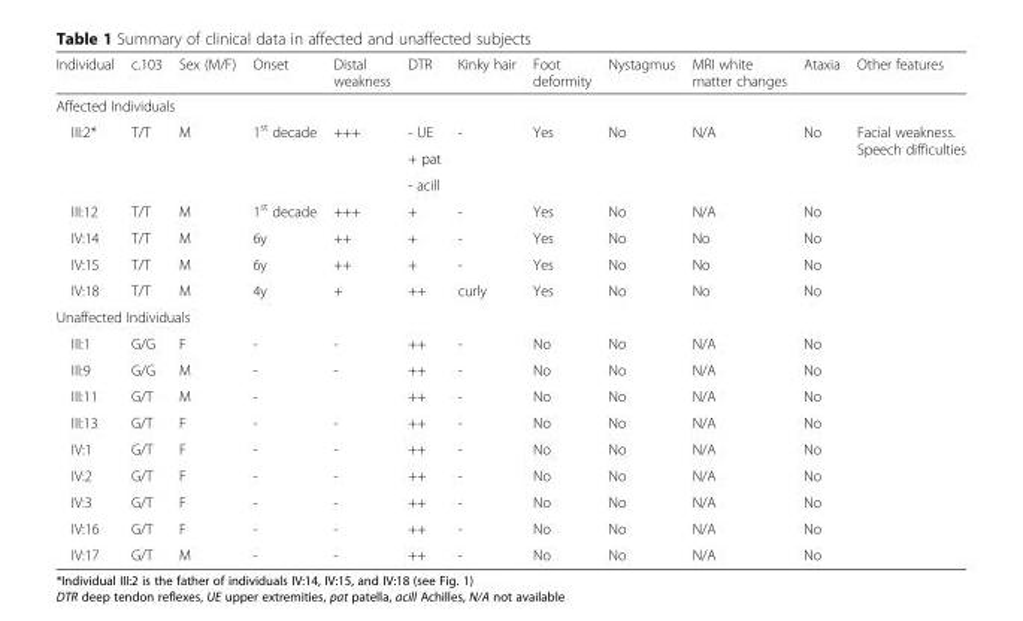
<table><thead><tr><td>Individual</td><td>c.103</td><td>Sex (M/F)</td><td>Onset</td><td>Distal weakness</td><td>DTR</td><td>Kinky hair</td><td>Foot deformity</td><td>Nystagmus</td><td>MRI white matter changes</td><td>Ataxia</td><td>Other features</td></tr></thead><tbody><tr><td colspan="12">Affected Individuals</td></tr><tr><td rowspan="3">III:2*</td><td rowspan="3">T/T</td><td rowspan="3">M</td><td rowspan="3">1<sup>st</sup> decade</td><td rowspan="3">+++</td><td>- UE</td><td rowspan="3">-</td><td rowspan="3">Yes</td><td rowspan="3">No</td><td rowspan="3">N/A</td><td rowspan="3">No</td><td rowspan="3">Facial weakness. Speech difficulties</td></tr><tr><td>+ pat</td></tr><tr><td>- acill</td></tr><tr><td>III:12</td><td>T/T</td><td>M</td><td>1<sup>st</sup> decade</td><td>+++</td><td>+</td><td>-</td><td>Yes</td><td>No</td><td>N/A</td><td>No</td><td></td></tr><tr><td>IV:14</td><td>T/T</td><td>M</td><td>6y</td><td>++</td><td>+</td><td>-</td><td>Yes</td><td>No</td><td>No</td><td>No</td><td></td></tr><tr><td>IV:15</td><td>T/T</td><td>M</td><td>6y</td><td>++</td><td>+</td><td>-</td><td>Yes</td><td>No</td><td>No</td><td>No</td><td></td></tr><tr><td>IV:18</td><td>T/T</td><td>M</td><td>4y</td><td>+</td><td>++</td><td>curly</td><td>Yes</td><td>No</td><td>No</td><td>No</td><td></td></tr><tr><td colspan="12">Unaffected Individuals</td></tr><tr><td>III:1</td><td>G/G</td><td>F</td><td>-</td><td>-</td><td>++</td><td>-</td><td>No</td><td>No</td><td>N/A</td><td>No</td><td></td></tr><tr><td>III:9</td><td>G/G</td><td>M</td><td>-</td><td>-</td><td>++</td><td>-</td><td>No</td><td>No</td><td>N/A</td><td>No</td><td></td></tr><tr><td>III:11</td><td>G/T</td><td>M</td><td>-</td><td></td><td>++</td><td>-</td><td>No</td><td>No</td><td>N/A</td><td>No</td><td></td></tr><tr><td>III:13</td><td>G/T</td><td>F</td><td>-</td><td>-</td><td>++</td><td>-</td><td>No</td><td>No</td><td>N/A</td><td>No</td><td></td></tr><tr><td>IV:1</td><td>G/T</td><td>F</td><td>-</td><td>-</td><td>++</td><td>-</td><td>No</td><td>No</td><td>N/A</td><td>No</td><td></td></tr><tr><td>IV:2</td><td>G/T</td><td>F</td><td>-</td><td>-</td><td>++</td><td>-</td><td>No</td><td>No</td><td>N/A</td><td>No</td><td></td></tr><tr><td>IV:3</td><td>G/T</td><td>F</td><td>-</td><td>-</td><td>++</td><td>-</td><td>No</td><td>No</td><td>N/A</td><td>No</td><td></td></tr><tr><td>IV:16</td><td>G/T</td><td>F</td><td>-</td><td>-</td><td>++</td><td>-</td><td>No</td><td>No</td><td>N/A</td><td>No</td><td></td></tr><tr><td>IV:17</td><td>G/T</td><td>M</td><td>-</td><td>-</td><td>++</td><td>-</td><td>No</td><td>No</td><td>N/A</td><td>No</td><td></td></tr></tbody></table>